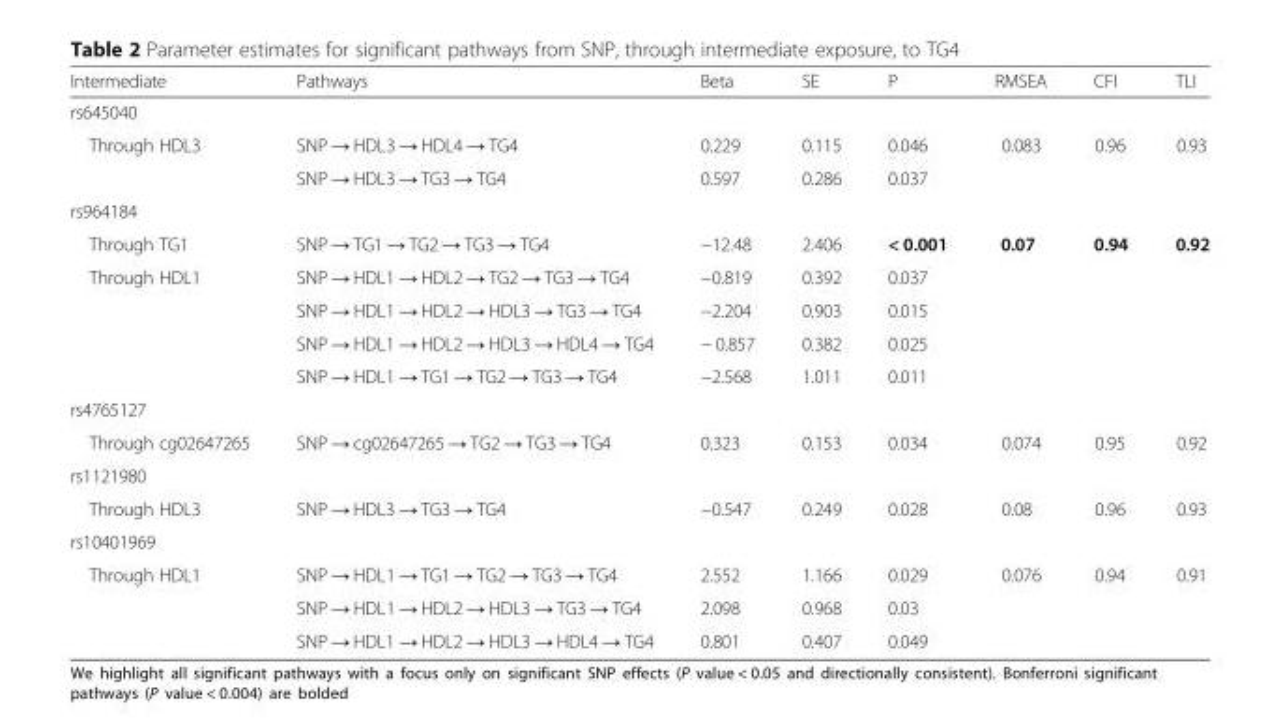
<table><thead><tr><td>Intermediate</td><td>Pathways</td><td>Beta</td><td>SE</td><td>P</td><td>RMSEA</td><td>CFI</td><td>TLI</td></tr></thead><tbody><tr><td colspan="8">rs645040</td></tr><tr><td rowspan="2">Through HDL3</td><td>SNP → HDL3 → HDL4 → TG4</td><td>0.229</td><td>0.115</td><td>0.046</td><td rowspan="2">0.083</td><td rowspan="2">0.96</td><td rowspan="2">0.93</td></tr><tr><td>SNP → HDL3 → TG3 → TG4</td><td>0.597</td><td>0.286</td><td>0.037</td></tr><tr><td colspan="8">rs964184</td></tr><tr><td>Through TG1</td><td>SNP → TG1 → TG2 → TG3 → TG4</td><td>−12.48</td><td>2.406</td><td>&lt; 0.001</td><td rowspan="5">0.07</td><td rowspan="5">0.94</td><td rowspan="5">0.92</td></tr><tr><td rowspan="4">Through HDL1</td><td>SNP → HDL1 → HDL2 → TG2 → TG3 → TG4</td><td>−0.819</td><td>0.392</td><td>0.037</td></tr><tr><td>SNP → HDL1 → HDL2 → HDL3 → TG3 → TG4</td><td>−2.204</td><td>0.903</td><td>0.015</td></tr><tr><td>SNP → HDL1 → HDL2 → HDL3 → HDL4 → TG4</td><td>− 0.857</td><td>0.382</td><td>0.025</td></tr><tr><td>SNP → HDL1 → TG1 → TG2 → TG3 → TG4</td><td>−2.568</td><td>1.011</td><td>0.011</td></tr><tr><td colspan="8">rs4765127</td></tr><tr><td>Through cg02647265</td><td>SNP → cg02647265 → TG2 → TG3 → TG4</td><td>0.323</td><td>0.153</td><td>0.034</td><td>0.074</td><td>0.95</td><td>0.92</td></tr><tr><td colspan="8">rs1121980</td></tr><tr><td>Through HDL3</td><td>SNP → HDL3 → TG3 → TG4</td><td>−0.547</td><td>0.249</td><td>0.028</td><td>0.08</td><td>0.96</td><td>0.93</td></tr><tr><td colspan="8">rs10401969</td></tr><tr><td rowspan="3">Through HDL1</td><td>SNP → HDL1 → TG1 → TG2 → TG3 → TG4</td><td>2.552</td><td>1.166</td><td>0.029</td><td rowspan="3">0.076</td><td rowspan="3">0.94</td><td rowspan="3">0.91</td></tr><tr><td>SNP → HDL1 → HDL2 → HDL3 → TG3 → TG4</td><td>2.098</td><td>0.968</td><td>0.03</td></tr><tr><td>SNP → HDL1 → HDL2 → HDL3 → HDL4 → TG4</td><td>0.801</td><td>0.407</td><td>0.049</td></tr></tbody></table>